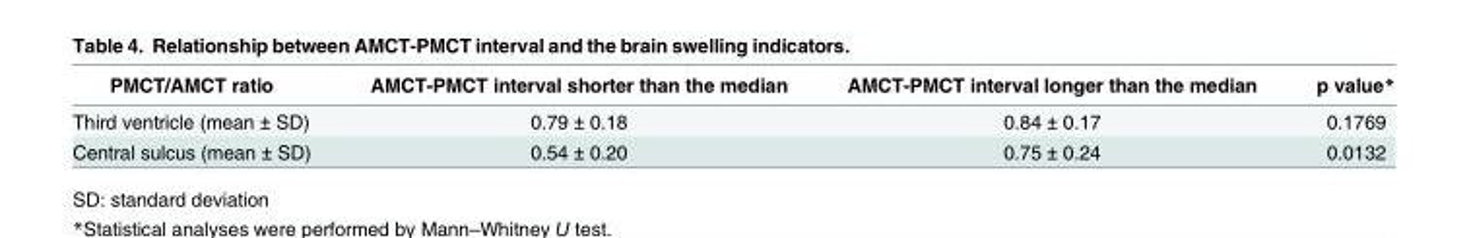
<table><thead><tr><td>PMCT/AMCT ratio</td><td>AMCT-PMCT interval shorter than the median</td><td>AMCT-PMCT interval longer than the median</td><td>p value*</td></tr></thead><tbody><tr><td>Third ventricle (mean ± SD)</td><td>0.79 ± 0.18</td><td>0.84 ± 0.17</td><td>0.1769</td></tr><tr><td>Central sulcus (mean ± SD)</td><td>0.54 ± 0.20</td><td>0.75 ± 0.24</td><td>0.0132</td></tr></tbody></table>